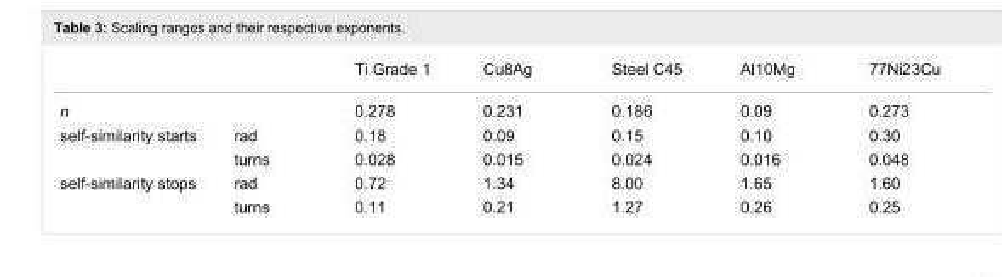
<table><thead><tr><td></td><td></td><td>Ti Grade 1</td><td>Cu8Ag</td><td>Steel C45</td><td>Al10Mg</td><td>77Ni23Cu</td></tr></thead><tbody><tr><td>n</td><td></td><td>0.278</td><td>0.231</td><td>0.186</td><td>0.09</td><td>0.273</td></tr><tr><td rowspan="2">self-similarity starts</td><td>rad</td><td>0.18</td><td>0.09</td><td>0.15</td><td>0.10</td><td>0.30</td></tr><tr><td>turns</td><td>0.028</td><td>0.015</td><td>0.024</td><td>0.016</td><td>0.048</td></tr><tr><td rowspan="2">self-similarity stops</td><td>rad</td><td>0.72</td><td>1.34</td><td>8.00</td><td>1.65</td><td>1.60</td></tr><tr><td>turns</td><td>0.11</td><td>0.21</td><td>1.27</td><td>0.26</td><td>0.25</td></tr></tbody></table>